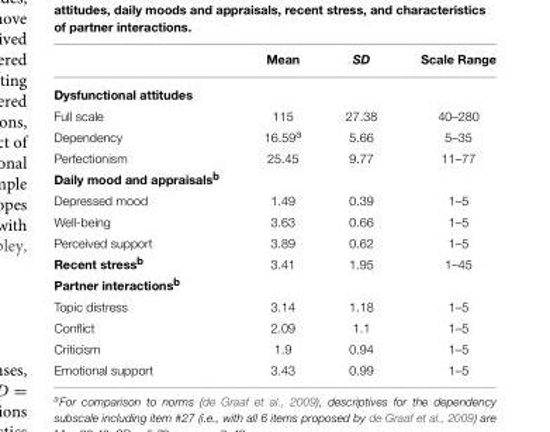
<table><thead><tr><td></td><td>Mean</td><td>SD</td><td>Scale Range</td></tr></thead><tbody><tr><td colspan="4">Dysfunctional attitudes</td></tr><tr><td>Full scale</td><td>115</td><td>27.38</td><td>40–280</td></tr><tr><td>Dependency</td><td>16.59<sup>a</sup></td><td>5.66</td><td>5–35</td></tr><tr><td>Perfectionism</td><td>25.45</td><td>9.77</td><td>11–77</td></tr><tr><td colspan="4">Daily mood and appraisals<sup>b</sup></td></tr><tr><td>Depressed mood</td><td>1.49</td><td>0.39</td><td>1–5</td></tr><tr><td>Well-being</td><td>3.63</td><td>0.66</td><td>1–5</td></tr><tr><td>Perceived support</td><td>3.89</td><td>0.62</td><td>1–5</td></tr><tr><td>Recent stress<sup>b</sup></td><td>3.41</td><td>1.95</td><td>1–45</td></tr><tr><td colspan="4">Partner interactions<sup>b</sup></td></tr><tr><td>Topic distress</td><td>3.14</td><td>1.18</td><td>1–5</td></tr><tr><td>Conflict</td><td>2.09</td><td>1.1</td><td>1–5</td></tr><tr><td>Criticism</td><td>1.9</td><td>0.94</td><td>1–5</td></tr><tr><td>Emotional support</td><td>3.43</td><td>0.99</td><td>1–5</td></tr></tbody></table>